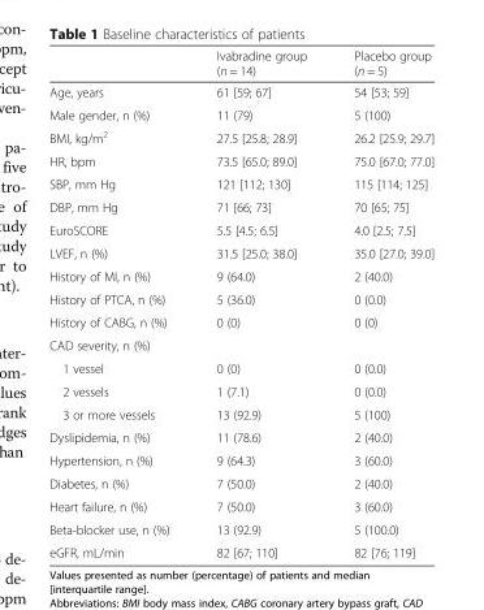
<table><thead><tr><td></td><td>Ivabradine group (n = 14)</td><td>Placebo group (n = 5)</td></tr></thead><tbody><tr><td>Age, years</td><td>61 [59; 67]</td><td>54 [53; 59]</td></tr><tr><td>Male gender, n (%)</td><td>11 (79)</td><td>5 (100)</td></tr><tr><td>BMI, kg/m<sup>2</sup></td><td>27.5 [25.8; 28.9]</td><td>26.2 [25.9; 29.7]</td></tr><tr><td>HR, bpm</td><td>73.5 [65.0; 89.0]</td><td>75.0 [67.0; 77.0]</td></tr><tr><td>SBP, mm Hg</td><td>121 [112; 130]</td><td>115 [114; 125]</td></tr><tr><td>DBP, mm Hg</td><td>71 [66; 73]</td><td>70 [65; 75]</td></tr><tr><td>EuroSCORE</td><td>5.5 [4.5; 6.5]</td><td>4.0 [2.5; 7.5]</td></tr><tr><td>LVEF, n (%)</td><td>31.5 [25.0; 38.0]</td><td>35.0 [27.0; 39.0]</td></tr><tr><td>History of MI, n (%)</td><td>9 (64.0)</td><td>2 (40.0)</td></tr><tr><td>History of PTCA, n (%)</td><td>5 (36.0)</td><td>0 (0.0)</td></tr><tr><td>History of CABG, n (%)</td><td>0 (0)</td><td>0 (0)</td></tr><tr><td colspan="3">CAD severity, n (%)</td></tr><tr><td>1 vessel</td><td>0 (0)</td><td>0 (0.0)</td></tr><tr><td>2 vessels</td><td>1 (7.1)</td><td>0 (0.0)</td></tr><tr><td>3 or more vessels</td><td>13 (92.9)</td><td>5 (100)</td></tr><tr><td>Dyslipidemia, n (%)</td><td>11 (78.6)</td><td>2 (40.0)</td></tr><tr><td>Hypertension, n (%)</td><td>9 (64.3)</td><td>3 (60.0)</td></tr><tr><td>Diabetes, n (%)</td><td>7 (50.0)</td><td>2 (40.0)</td></tr><tr><td>Heart failure, n (%)</td><td>7 (50.0)</td><td>3 (60.0)</td></tr><tr><td>Beta-blocker use, n (%)</td><td>13 (92.9)</td><td>5 (100.0)</td></tr><tr><td>eGFR, mL/min</td><td>82 [67; 110]</td><td>82 [76; 119]</td></tr></tbody></table>